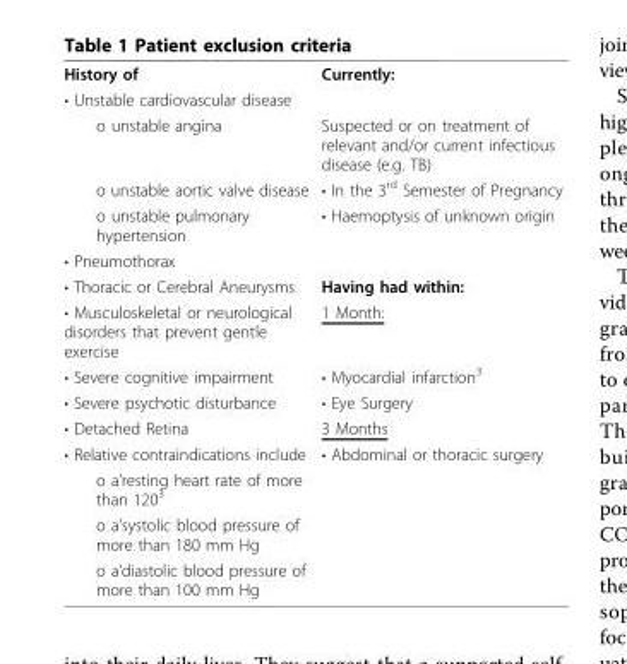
<table><tbody><tr><td>History of</td><td>Currently:</td></tr><tr><td colspan="2">• Unstable cardiovascular disease</td></tr><tr><td>ο unstable angina</td><td>Suspected or on treatment of relevant and/or current infectious disease (e.g. TB)</td></tr><tr><td>ο unstable aortic valve disease</td><td>• In the 3<sup>rd</sup> Semester of Pregnancy</td></tr><tr><td>ο unstable pulmonary hypertension</td><td>• Haemoptysis of unknown origin</td></tr><tr><td colspan="2">• Pneumothorax</td></tr><tr><td>• Thoracic or Cerebral Aneurysms</td><td>Having had within:</td></tr><tr><td>• Musculoskeletal or neurological disorders that prevent gentle exercise</td><td>1 Month:</td></tr><tr><td>• Severe cognitive impairment</td><td>• Myocardial infarction<sup>3</sup></td></tr><tr><td>• Severe psychotic disturbance</td><td>• Eye Surgery</td></tr><tr><td>• Detached Retina</td><td>3 Months</td></tr><tr><td>• Relative contraindications include</td><td>• Abdominal or thoracic surgery</td></tr><tr><td colspan="2">ο a’resting heart rate of more than 120<sup>3</sup></td></tr><tr><td colspan="2">ο a’systolic blood pressure of more than 180 mm Hg</td></tr><tr><td>ο a’diastolic blood pressure of more than 100 mm Hg</td><td></td></tr></tbody></table>